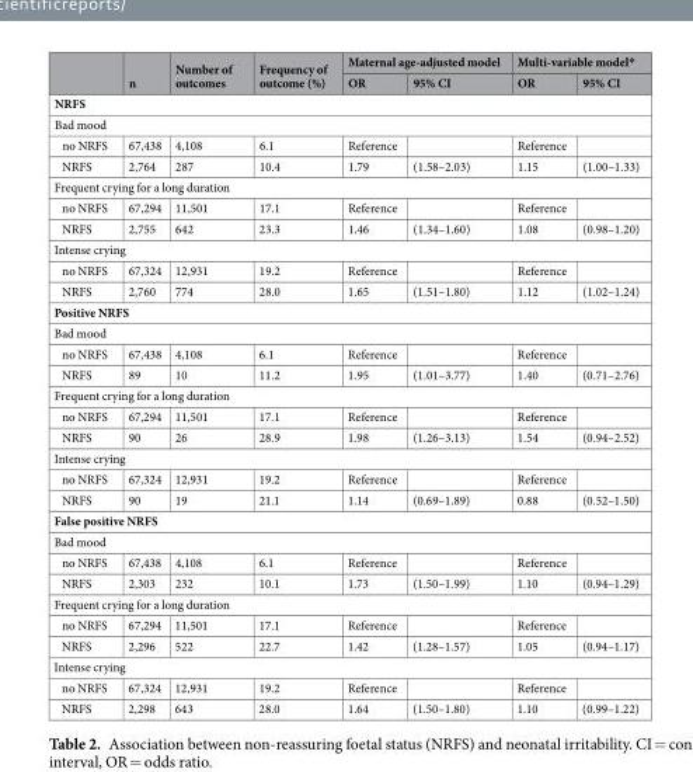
<table><thead><tr><td rowspan="2"></td><td rowspan="2">n</td><td rowspan="2">Number of outcomes</td><td rowspan="2">Frequency of outcome (%)</td><td colspan="2">Maternal age-adjusted model</td><td colspan="2">Multi-variable model*</td></tr><tr><td>OR</td><td>95% CI</td><td>OR</td><td>95% CI</td></tr></thead><tbody><tr><td colspan="8">NRFS</td></tr><tr><td colspan="8">Bad mood</td></tr><tr><td>no NRFS</td><td>67,438</td><td>4,108</td><td>6.1</td><td>Reference</td><td></td><td>Reference</td><td></td></tr><tr><td>NRFS</td><td>2,764</td><td>287</td><td>10.4</td><td>1.79</td><td>(1.58–2.03)</td><td>1.15</td><td>(1.00–1.33)</td></tr><tr><td colspan="8">Frequent crying for a long duration</td></tr><tr><td>no NRFS</td><td>67,294</td><td>11,501</td><td>17.1</td><td>Reference</td><td></td><td>Reference</td><td></td></tr><tr><td>NRFS</td><td>2,755</td><td>642</td><td>23.3</td><td>1.46</td><td>(1.34–1.60)</td><td>1.08</td><td>(0.98–1.20)</td></tr><tr><td colspan="8">Intense crying</td></tr><tr><td>no NRFS</td><td>67,324</td><td>12,931</td><td>19.2</td><td>Reference</td><td></td><td>Reference</td><td></td></tr><tr><td>NRFS</td><td>2,760</td><td>774</td><td>28.0</td><td>1.65</td><td>(1.51–1.80)</td><td>1.12</td><td>(1.02–1.24)</td></tr><tr><td colspan="8">Positive NRFS</td></tr><tr><td colspan="8">Bad mood</td></tr><tr><td>no NRFS</td><td>67,438</td><td>4,108</td><td>6.1</td><td>Reference</td><td></td><td>Reference</td><td></td></tr><tr><td>NRFS</td><td>89</td><td>10</td><td>11.2</td><td>1.95</td><td>(1.01–3.77)</td><td>1.40</td><td>(0.71–2.76)</td></tr><tr><td colspan="8">Frequent crying for a long duration</td></tr><tr><td>no NRFS</td><td>67,294</td><td>11,501</td><td>17.1</td><td>Reference</td><td></td><td>Reference</td><td></td></tr><tr><td>NRFS</td><td>90</td><td>26</td><td>28.9</td><td>1.98</td><td>(1.26–3.13)</td><td>1.54</td><td>(0.94–2.52)</td></tr><tr><td colspan="8">Intense crying</td></tr><tr><td>no NRFS</td><td>67,324</td><td>12,931</td><td>19.2</td><td>Reference</td><td></td><td>Reference</td><td></td></tr><tr><td>NRFS</td><td>90</td><td>19</td><td>21.1</td><td>1.14</td><td>(0.69–1.89)</td><td>0.88</td><td>(0.52–1.50)</td></tr><tr><td colspan="8">False positive NRFS</td></tr><tr><td colspan="8">Bad mood</td></tr><tr><td>no NRFS</td><td>67,438</td><td>4,108</td><td>6.1</td><td>Reference</td><td></td><td>Reference</td><td></td></tr><tr><td>NRFS</td><td>2,303</td><td>232</td><td>10.1</td><td>1.73</td><td>(1.50–1.99)</td><td>1.10</td><td>(0.94–1.29)</td></tr><tr><td colspan="8">Frequent crying for a long duration</td></tr><tr><td>no NRFS</td><td>67,294</td><td>11,501</td><td>17.1</td><td>Reference</td><td></td><td>Reference</td><td></td></tr><tr><td>NRFS</td><td>2,296</td><td>522</td><td>22.7</td><td>1.42</td><td>(1.28–1.57)</td><td>1.05</td><td>(0.94–1.17)</td></tr><tr><td colspan="8">Intense crying</td></tr><tr><td>no NRFS</td><td>67,324</td><td>12,931</td><td>19.2</td><td>Reference</td><td></td><td>Reference</td><td></td></tr><tr><td>NRFS</td><td>2,298</td><td>643</td><td>28.0</td><td>1.64</td><td>(1.50–1.80)</td><td>1.10</td><td>(0.99–1.22)</td></tr></tbody></table>